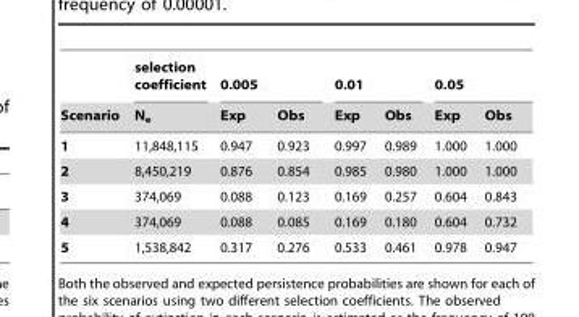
<table><thead><tr><td rowspan="2">Scenario</td><td rowspan="2">selection coefficient N<sub>e</sub></td><td colspan="2">0.005</td><td colspan="2">0.01</td><td colspan="2">0.05</td></tr><tr><td>Exp</td><td>Obs</td><td>Exp</td><td>Obs</td><td>Exp</td><td>Obs</td></tr></thead><tbody><tr><td>1</td><td>11,848,115</td><td>0.947</td><td>0.923</td><td>0.997</td><td>0.989</td><td>1.000</td><td>1.000</td></tr><tr><td>2</td><td>8,450,219</td><td>0.876</td><td>0.854</td><td>0.985</td><td>0.980</td><td>1.000</td><td>1.000</td></tr><tr><td>3</td><td>374,069</td><td>0.088</td><td>0.123</td><td>0.169</td><td>0.257</td><td>0.604</td><td>0.843</td></tr><tr><td>4</td><td>374,069</td><td>0.088</td><td>0.085</td><td>0.169</td><td>0.180</td><td>0.604</td><td>0.732</td></tr><tr><td>5</td><td>1,538,842</td><td>0.317</td><td>0.276</td><td>0.533</td><td>0.461</td><td>0.978</td><td>0.947</td></tr></tbody></table>